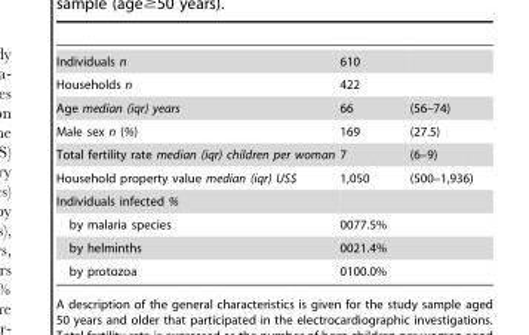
<table><tbody><tr><td>Individuals n</td><td>610</td><td></td></tr><tr><td>Households n</td><td>422</td><td></td></tr><tr><td>Age median (iqr) years</td><td>66</td><td>(56–74)</td></tr><tr><td>Male sex n (%)</td><td>169</td><td>(27.5)</td></tr><tr><td>Total fertility rate median (iqr) children per woman</td><td>7</td><td>(6–9)</td></tr><tr><td>Household property value median (iqr) US$</td><td>1,050</td><td>(500–1,936)</td></tr><tr><td colspan="3">Individuals infected %</td></tr><tr><td>by malaria species</td><td colspan="2">0077.5%</td></tr><tr><td>by helminths</td><td colspan="2">0021.4%</td></tr><tr><td>by protozoa</td><td colspan="2">0100.0%</td></tr></tbody></table>